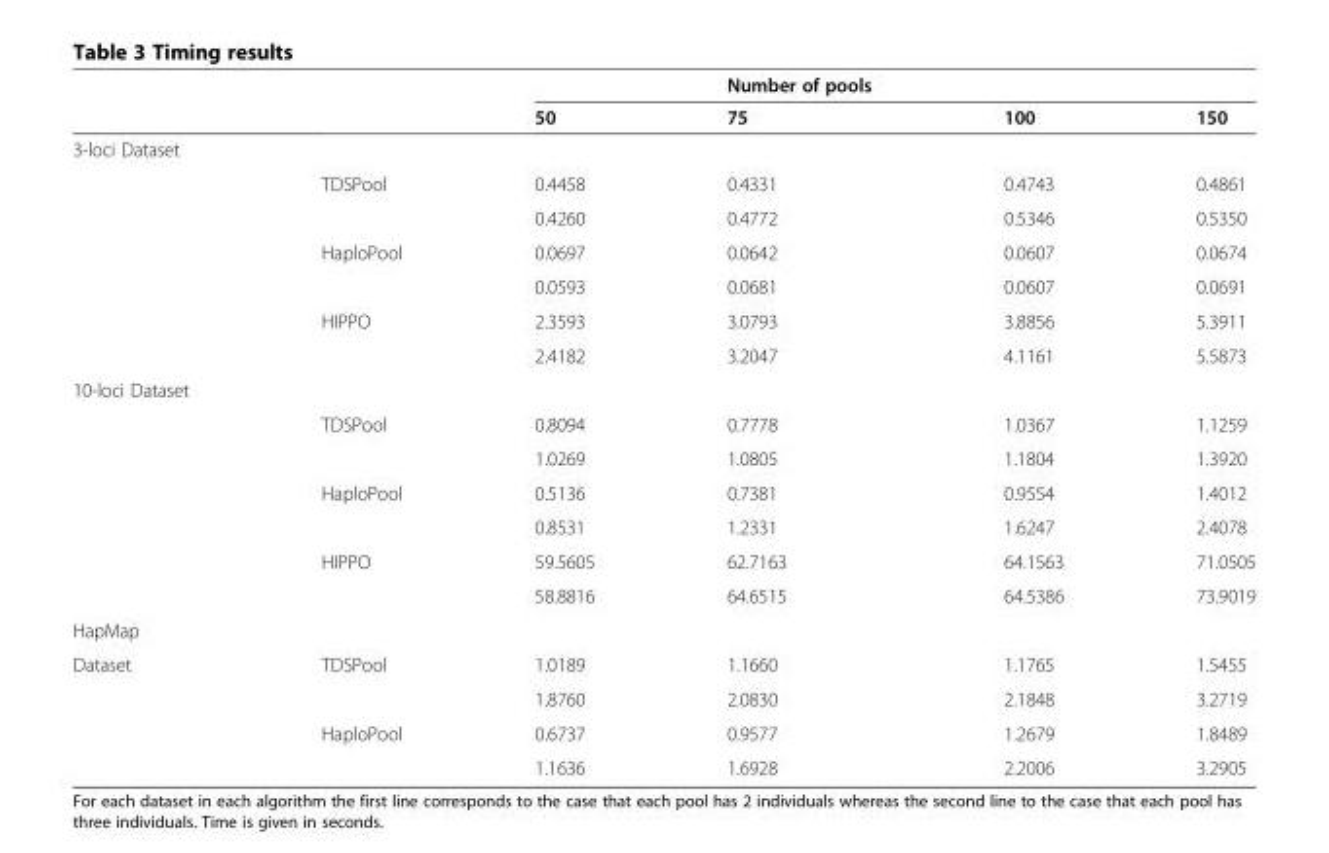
<table><thead><tr><td rowspan="2"></td><td rowspan="2"></td><td rowspan="2">50</td><td rowspan="2">Number of pools 75</td><td rowspan="2">100</td><td rowspan="2">150</td></tr><tr></tr></thead><tbody><tr><td colspan="6">3-loci Dataset</td></tr><tr><td></td><td>TDSPool</td><td>0.4458</td><td>0.4331</td><td>0.4743</td><td>0.4861</td></tr><tr><td></td><td></td><td>0.4260</td><td>0.4772</td><td>0.5346</td><td>0.5350</td></tr><tr><td></td><td>HaploPool</td><td>0.0697</td><td>0.0642</td><td>0.0607</td><td>0.0674</td></tr><tr><td></td><td></td><td>0.0593</td><td>0.0681</td><td>0.0607</td><td>0.0691</td></tr><tr><td></td><td>HIPPO</td><td>2.3593</td><td>3.0793</td><td>3.8856</td><td>5.3911</td></tr><tr><td></td><td></td><td>2.4182</td><td>3.2047</td><td>4.1161</td><td>5.5873</td></tr><tr><td colspan="6">10-loci Dataset</td></tr><tr><td></td><td>TDSPool</td><td>0.8094</td><td>0.7778</td><td>1.0367</td><td>1.1259</td></tr><tr><td></td><td></td><td>1.0269</td><td>1.0805</td><td>1.1804</td><td>1.3920</td></tr><tr><td></td><td>HaploPool</td><td>0.5136</td><td>0.7381</td><td>0.9554</td><td>1.4012</td></tr><tr><td></td><td></td><td>0.8531</td><td>1.2331</td><td>1.6247</td><td>2.4078</td></tr><tr><td></td><td>HIPPO</td><td>59.5605</td><td>62.7163</td><td>64.1563</td><td>71.0505</td></tr><tr><td></td><td></td><td>58.8816</td><td>64.6515</td><td>64.5386</td><td>73.9019</td></tr><tr><td colspan="6">HapMap</td></tr><tr><td rowspan="4">Dataset</td><td>TDSPool</td><td>1.0189</td><td>1.1660</td><td>1.1765</td><td>1.5455</td></tr><tr><td></td><td>1.8760</td><td>2.0830</td><td>2.1848</td><td>3.2719</td></tr><tr><td>HaploPool</td><td>0.6737</td><td>0.9577</td><td>1.2679</td><td>1.8489</td></tr><tr><td></td><td>1.1636</td><td>1.6928</td><td>2.2006</td><td>3.2905</td></tr></tbody></table>